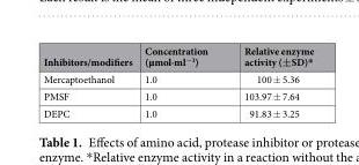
<table><thead><tr><td>Inhibitors/modifiers</td><td>Concentration (µmol·ml<sup>−1</sup>)</td><td>Relative enzyme activity (±SD)*</td></tr></thead><tbody><tr><td>Mercaptoethanol</td><td>1.0</td><td>100 ± 5.36</td></tr><tr><td>PMSF</td><td>1.0</td><td>103.97 ± 7.64</td></tr><tr><td>DEPC</td><td>1.0</td><td>91.83 ± 3.25</td></tr></tbody></table>